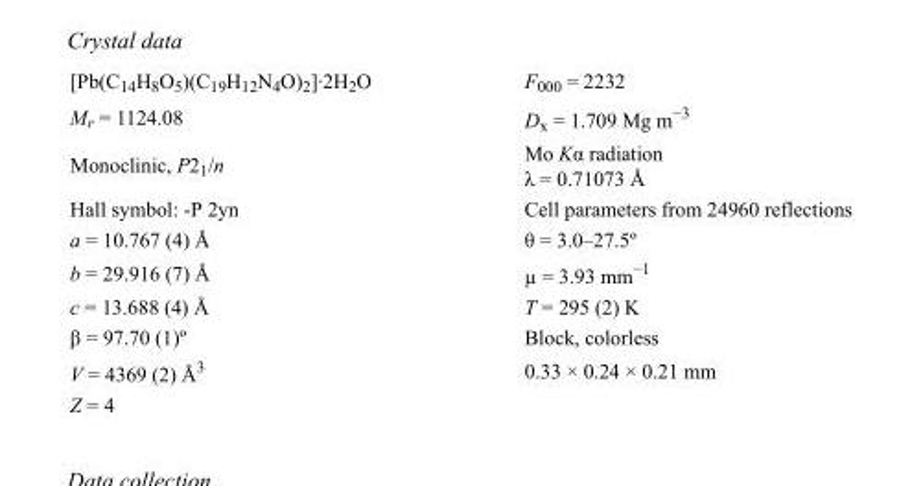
<table><tbody><tr><td>[Pb(C<sub>14</sub>H<sub>8</sub>O<sub>5</sub>)(C<sub>19</sub>H<sub>12</sub>N<sub>4</sub>O)<sub>2</sub>]·2H<sub>2</sub>O</td><td>F<sub>000</sub> = 2232</td></tr><tr><td>M<sub>r</sub> = 1124.08</td><td>D<sub>x</sub> = 1.709 Mg m<sup>−3</sup></td></tr><tr><td>Monoclinic, P2<sub>1</sub>/n</td><td>Mo Kα radiation λ = 0.71073 Å</td></tr><tr><td>Hall symbol: -P 2yn</td><td>Cell parameters from 24960 reflections</td></tr><tr><td>a = 10.767 (4) Å</td><td>θ = 3.0–27.5º</td></tr><tr><td>b = 29.916 (7) Å</td><td>µ = 3.93 mm<sup>−1</sup></td></tr><tr><td>c = 13.688 (4) Å</td><td>T = 295 (2) K</td></tr><tr><td>β = 97.70 (1)º</td><td>Block, colorless</td></tr><tr><td>V = 4369 (2) Å<sup>3</sup></td><td>0.33 × 0.24 × 0.21 mm</td></tr><tr><td>Z = 4</td><td></td></tr></tbody></table>